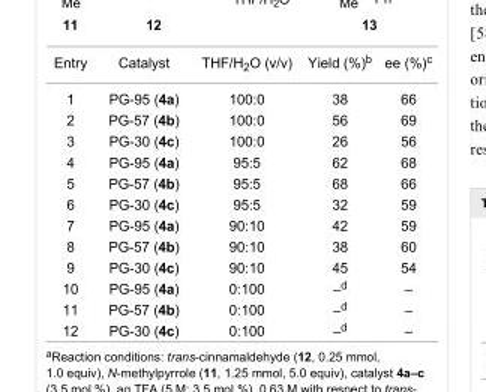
<table><tbody><tr><td>Entry</td><td>Catalyst</td><td>THF/H<sub>2</sub>O (v/v)</td><td>Yield (%)<sup>b</sup></td><td>ee (%)<sup>c</sup></td></tr><tr><td>1</td><td>PG-95 (4a)</td><td>100:0</td><td>38</td><td>66</td></tr><tr><td>2</td><td>PG-57 (4b)</td><td>100:0</td><td>56</td><td>69</td></tr><tr><td>3</td><td>PG-30 (4c)</td><td>100:0</td><td>26</td><td>56</td></tr><tr><td>4</td><td>PG-95 (4a)</td><td>95:5</td><td>62</td><td>68</td></tr><tr><td>5</td><td>PG-57 (4b)</td><td>95:5</td><td>68</td><td>66</td></tr><tr><td>6</td><td>PG-30 (4c)</td><td>95:5</td><td>32</td><td>59</td></tr><tr><td>7</td><td>PG-95 (4a)</td><td>90:10</td><td>42</td><td>59</td></tr><tr><td>8</td><td>PG-57 (4b)</td><td>90:10</td><td>38</td><td>60</td></tr><tr><td>9</td><td>PG-30 (4c)</td><td>90:10</td><td>45</td><td>54</td></tr><tr><td>10</td><td>PG-95 (4a)</td><td>0:100</td><td>–<sup>d</sup></td><td>–</td></tr><tr><td>11</td><td>PG-57 (4b)</td><td>0:100</td><td>–<sup>d</sup></td><td>–</td></tr><tr><td>12</td><td>PG-30 (4c)</td><td>0:100</td><td>–<sup>d</sup></td><td>–</td></tr></tbody></table>